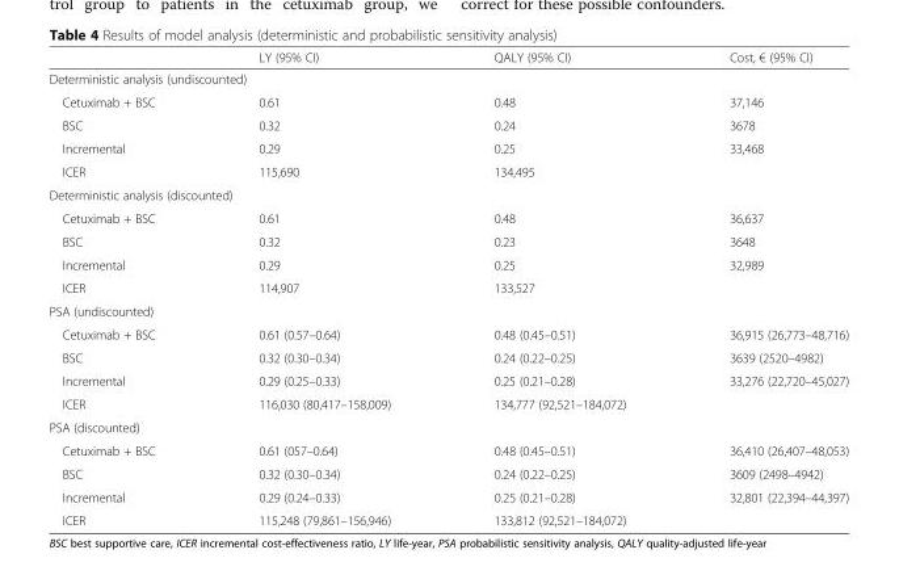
<table><thead><tr><td></td><td>LY (95% CI)</td><td>QALY (95% CI)</td><td>Cost, € (95% CI)</td></tr></thead><tbody><tr><td colspan="4">Deterministic analysis (undiscounted)</td></tr><tr><td>Cetuximab + BSC</td><td>0.61</td><td>0.48</td><td>37,146</td></tr><tr><td>BSC</td><td>0.32</td><td>0.24</td><td>3678</td></tr><tr><td>Incremental</td><td>0.29</td><td>0.25</td><td>33,468</td></tr><tr><td>ICER</td><td>115,690</td><td>134,495</td><td></td></tr><tr><td colspan="4">Deterministic analysis (discounted)</td></tr><tr><td>Cetuximab + BSC</td><td>0.61</td><td>0.48</td><td>36,637</td></tr><tr><td>BSC</td><td>0.32</td><td>0.23</td><td>3648</td></tr><tr><td>Incremental</td><td>0.29</td><td>0.25</td><td>32,989</td></tr><tr><td>ICER</td><td>114,907</td><td>133,527</td><td></td></tr><tr><td colspan="4">PSA (undiscounted)</td></tr><tr><td>Cetuximab + BSC</td><td>0.61 (0.57–0.64)</td><td>0.48 (0.45–0.51)</td><td>36,915 (26,773–48,716)</td></tr><tr><td>BSC</td><td>0.32 (0.30–0.34)</td><td>0.24 (0.22–0.25)</td><td>3639 (2520–4982)</td></tr><tr><td>Incremental</td><td>0.29 (0.25–0.33)</td><td>0.25 (0.21–0.28)</td><td>33,276 (22,720–45,027)</td></tr><tr><td>ICER</td><td>116,030 (80,417–158,009)</td><td>134,777 (92,521–184,072)</td><td></td></tr><tr><td colspan="4">PSA (discounted)</td></tr><tr><td>Cetuximab + BSC</td><td>0.61 (057–0.64)</td><td>0.48 (0.45–0.51)</td><td>36,410 (26,407–48,053)</td></tr><tr><td>BSC</td><td>0.32 (0.30–0.34)</td><td>0.24 (0.22–0.25)</td><td>3609 (2498–4942)</td></tr><tr><td>Incremental</td><td>0.29 (0.24–0.33)</td><td>0.25 (0.21–0.28)</td><td>32,801 (22,394–44,397)</td></tr><tr><td>ICER</td><td>115,248 (79,861–156,946)</td><td>133,812 (92,521–184,072)</td><td></td></tr></tbody></table>